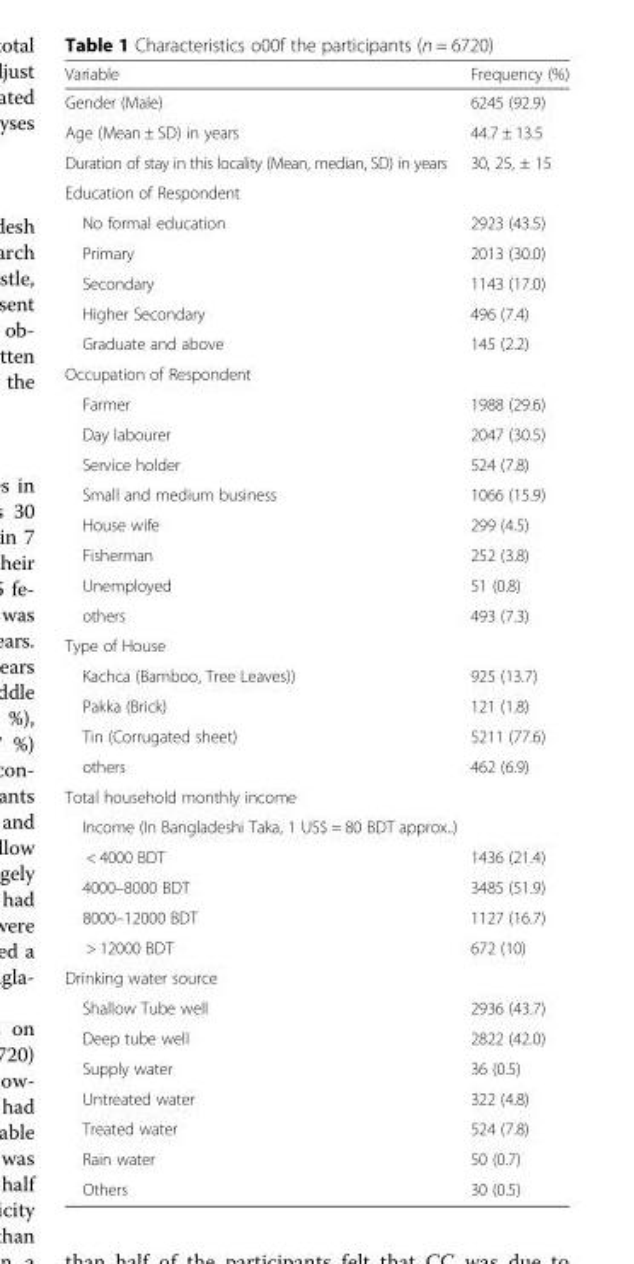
<table><thead><tr><td>Variable</td><td>Frequency (%)</td></tr></thead><tbody><tr><td>Gender (Male)</td><td>6245 (92.9)</td></tr><tr><td>Age (Mean ± SD) in years</td><td>44.7 ± 13.5</td></tr><tr><td>Duration of stay in this locality (Mean, median, SD) in years</td><td>30, 25, ± 15</td></tr><tr><td colspan="2">Education of Respondent</td></tr><tr><td>No formal education</td><td>2923 (43.5)</td></tr><tr><td>Primary</td><td>2013 (30.0)</td></tr><tr><td>Secondary</td><td>1143 (17.0)</td></tr><tr><td>Higher Secondary</td><td>496 (7.4)</td></tr><tr><td>Graduate and above</td><td>145 (2.2)</td></tr><tr><td colspan="2">Occupation of Respondent</td></tr><tr><td>Farmer</td><td>1988 (29.6)</td></tr><tr><td>Day labourer</td><td>2047 (30.5)</td></tr><tr><td>Service holder</td><td>524 (7.8)</td></tr><tr><td>Small and medium business</td><td>1066 (15.9)</td></tr><tr><td>House wife</td><td>299 (4.5)</td></tr><tr><td>Fisherman</td><td>252 (3.8)</td></tr><tr><td>Unemployed</td><td>51 (0.8)</td></tr><tr><td>others</td><td>493 (7.3)</td></tr><tr><td colspan="2">Type of House</td></tr><tr><td>Kachca (Bamboo, Tree Leaves))</td><td>925 (13.7)</td></tr><tr><td>Pakka (Brick)</td><td>121 (1.8)</td></tr><tr><td>Tin (Corrugated sheet)</td><td>5211 (77.6)</td></tr><tr><td>others</td><td>462 (6.9)</td></tr><tr><td colspan="2">Total household monthly income</td></tr><tr><td colspan="2">Income (In Bangladeshi Taka, 1 US$ = 80 BDT approx..)</td></tr><tr><td>&lt; 4000 BDT</td><td>1436 (21.4)</td></tr><tr><td>4000–8000 BDT</td><td>3485 (51.9)</td></tr><tr><td>8000–12000 BDT</td><td>1127 (16.7)</td></tr><tr><td>&gt; 12000 BDT</td><td>672 (10)</td></tr><tr><td colspan="2">Drinking water source</td></tr><tr><td>Shallow Tube well</td><td>2936 (43.7)</td></tr><tr><td>Deep tube well</td><td>2822 (42.0)</td></tr><tr><td>Supply water</td><td>36 (0.5)</td></tr><tr><td>Untreated water</td><td>322 (4.8)</td></tr><tr><td>Treated water</td><td>524 (7.8)</td></tr><tr><td>Rain water</td><td>50 (0.7)</td></tr><tr><td>Others</td><td>30 (0.5)</td></tr></tbody></table>